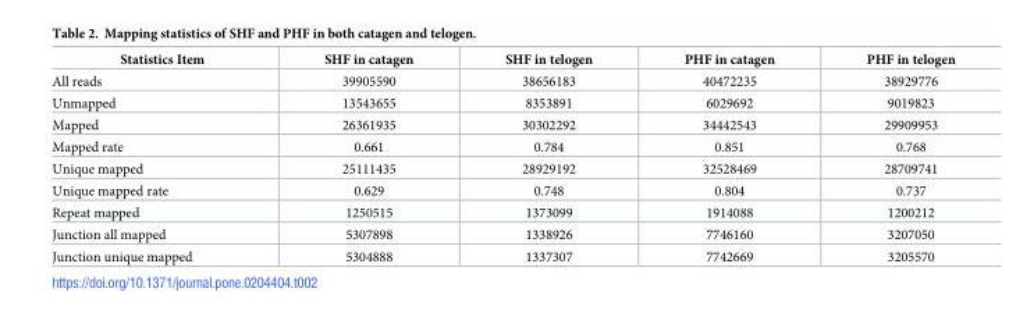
<table><thead><tr><td>Statistics Item</td><td>SHF in catagen</td><td>SHF in telogen</td><td>PHF in catagen</td><td>PHF in telogen</td></tr></thead><tbody><tr><td>All reads</td><td>39905590</td><td>38656183</td><td>40472235</td><td>38929776</td></tr><tr><td>Unmapped</td><td>13543655</td><td>8353891</td><td>6029692</td><td>9019823</td></tr><tr><td>Mapped</td><td>26361935</td><td>30302292</td><td>34442543</td><td>29909953</td></tr><tr><td>Mapped rate</td><td>0.661</td><td>0.784</td><td>0.851</td><td>0.768</td></tr><tr><td>Unique mapped</td><td>25111435</td><td>28929192</td><td>32528469</td><td>28709741</td></tr><tr><td>Unique mapped rate</td><td>0.629</td><td>0.748</td><td>0.804</td><td>0.737</td></tr><tr><td>Repeat mapped</td><td>1250515</td><td>1373099</td><td>1914088</td><td>1200212</td></tr><tr><td>Junction all mapped</td><td>5307898</td><td>1338926</td><td>7746160</td><td>3207050</td></tr><tr><td>Junction unique mapped</td><td>5304888</td><td>1337307</td><td>7742669</td><td>3205570</td></tr></tbody></table>